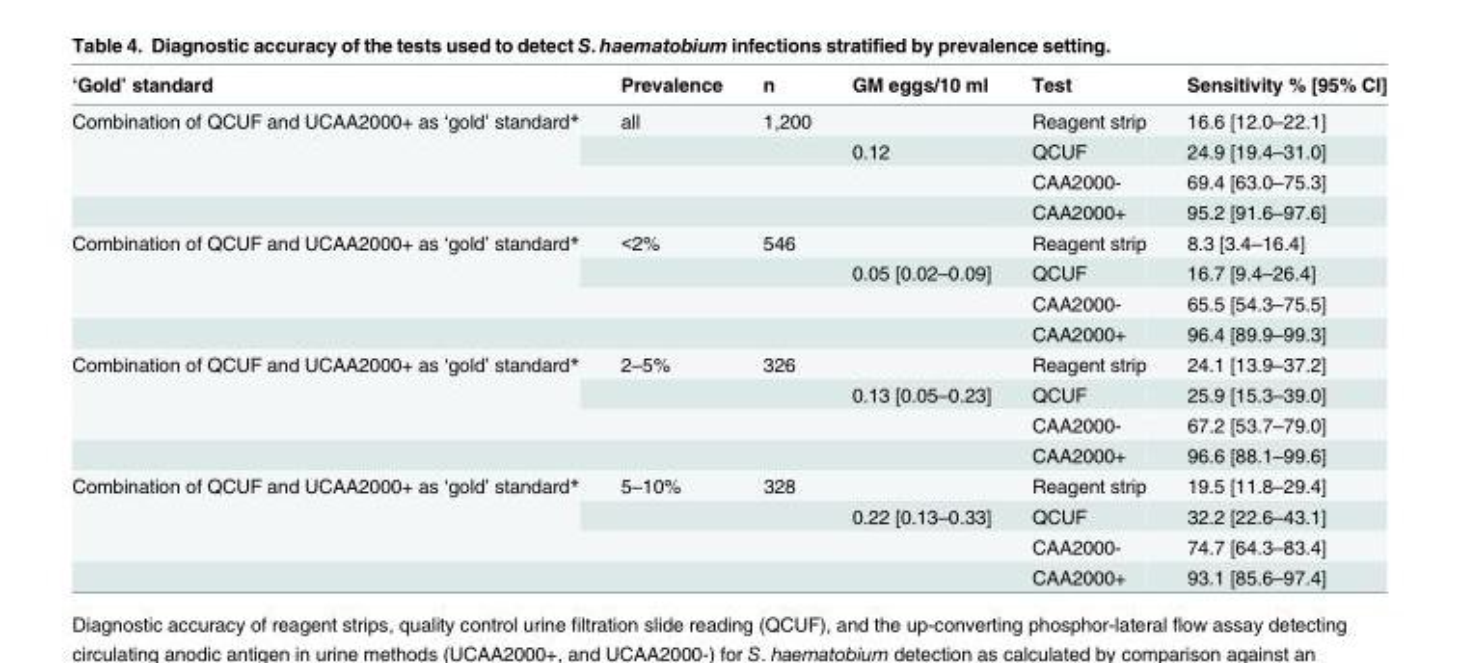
<table><thead><tr><td>‘Gold’ standard</td><td>Prevalence</td><td>n</td><td>GM eggs/10 ml</td><td>Test</td><td>Sensitivity % [95% CI]</td></tr></thead><tbody><tr><td rowspan="4">Combination of QCUF and UCAA2000+ as ‘gold’ standard*</td><td>all</td><td>1,200</td><td></td><td>Reagent strip</td><td>16.6 [12.0–22.1]</td></tr><tr><td></td><td></td><td>0.12</td><td>QCUF</td><td>24.9 [19.4–31.0]</td></tr><tr><td></td><td></td><td></td><td>CAA2000-</td><td>69.4 [63.0–75.3]</td></tr><tr><td></td><td></td><td></td><td>CAA2000+</td><td>95.2 [91.6–97.6]</td></tr><tr><td rowspan="4">Combination of QCUF and UCAA2000+ as ‘gold’ standard*</td><td>&lt;2%</td><td>546</td><td></td><td>Reagent strip</td><td>8.3 [3.4–16.4]</td></tr><tr><td></td><td></td><td>0.05 [0.02–0.09]</td><td>QCUF</td><td>16.7 [9.4–26.4]</td></tr><tr><td></td><td></td><td></td><td>CAA2000-</td><td>65.5 [54.3–75.5]</td></tr><tr><td></td><td></td><td></td><td>CAA2000+</td><td>96.4 [89.9–99.3]</td></tr><tr><td rowspan="4">Combination of QCUF and UCAA2000+ as ‘gold’ standard*</td><td>2–5%</td><td>326</td><td></td><td>Reagent strip</td><td>24.1 [13.9–37.2]</td></tr><tr><td></td><td></td><td>0.13 [0.05–0.23]</td><td>QCUF</td><td>25.9 [15.3–39.0]</td></tr><tr><td></td><td></td><td></td><td>CAA2000-</td><td>67.2 [53.7–79.0]</td></tr><tr><td></td><td></td><td></td><td>CAA2000+</td><td>96.6 [88.1–99.6]</td></tr><tr><td rowspan="4">Combination of QCUF and UCAA2000+ as ‘gold’ standard*</td><td>5–10%</td><td>328</td><td></td><td>Reagent strip</td><td>19.5 [11.8–29.4]</td></tr><tr><td></td><td></td><td>0.22 [0.13–0.33]</td><td>QCUF</td><td>32.2 [22.6–43.1]</td></tr><tr><td></td><td></td><td></td><td>CAA2000-</td><td>74.7 [64.3–83.4]</td></tr><tr><td></td><td></td><td></td><td>CAA2000+</td><td>93.1 [85.6–97.4]</td></tr></tbody></table>